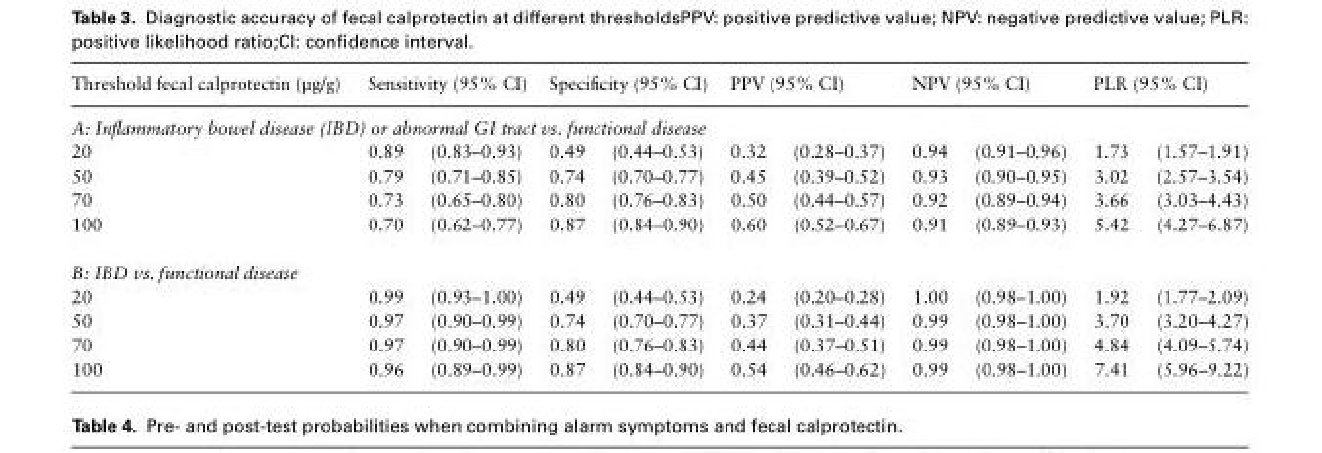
<table><thead><tr><td>Threshold fecal calprotectin (μg/g)</td><td colspan="2">Sensitivity (95% CI)</td><td colspan="2">Specificity (95% CI)</td><td colspan="2">PPV (95% CI)</td><td colspan="2">NPV (95% CI)</td><td colspan="2">PLR (95% CI)</td></tr><tr><td colspan="11">A: Inflammatory bowel disease (IBD) or abnormal GI tract vs. functional disease</td></tr><tr><td>20</td><td>0.89</td><td>(0.83–0.93)</td><td>0.49</td><td>(0.44–0.53)</td><td>0.32</td><td>(0.28–0.37)</td><td>0.94</td><td>(0.91–0.96)</td><td>1.73</td><td>(1.57–1.91)</td></tr></thead><tbody><tr><td>50</td><td>0.79</td><td>(0.71–0.85)</td><td>0.74</td><td>(0.70–0.77)</td><td>0.45</td><td>(0.39–0.52)</td><td>0.93</td><td>(0.90–0.95)</td><td>3.02</td><td>(2.57–3.54)</td></tr><tr><td>70</td><td>0.73</td><td>(0.65–0.80)</td><td>0.80</td><td>(0.76–0.83)</td><td>0.50</td><td>(0.44–0.57)</td><td>0.92</td><td>(0.89–0.94)</td><td>3.66</td><td>(3.03–4.43)</td></tr><tr><td>100</td><td>0.70</td><td>(0.62–0.77)</td><td>0.87</td><td>(0.84–0.90)</td><td>0.60</td><td>(0.52–0.67)</td><td>0.91</td><td>(0.89–0.93)</td><td>5.42</td><td>(4.27–6.87)</td></tr><tr><td colspan="11">B: IBD vs. functional disease</td></tr><tr><td>20</td><td>0.99</td><td>(0.93–1.00)</td><td>0.49</td><td>(0.44–0.53)</td><td>0.24</td><td>(0.20–0.28)</td><td>1.00</td><td>(0.98–1.00)</td><td>1.92</td><td>(1.77–2.09)</td></tr><tr><td>50</td><td>0.97</td><td>(0.90–0.99)</td><td>0.74</td><td>(0.70–0.77)</td><td>0.37</td><td>(0.31–0.44)</td><td>0.99</td><td>(0.98–1.00)</td><td>3.70</td><td>(3.20–4.27)</td></tr><tr><td>70</td><td>0.97</td><td>(0.90–0.99)</td><td>0.80</td><td>(0.76–0.83)</td><td>0.44</td><td>(0.37–0.51)</td><td>0.99</td><td>(0.98–1.00)</td><td>4.84</td><td>(4.09–5.74)</td></tr><tr><td>100</td><td>0.96</td><td>(0.89–0.99)</td><td>0.87</td><td>(0.84–0.90)</td><td>0.54</td><td>(0.46–0.62)</td><td>0.99</td><td>(0.98–1.00)</td><td>7.41</td><td>(5.96–9.22)</td></tr></tbody></table>